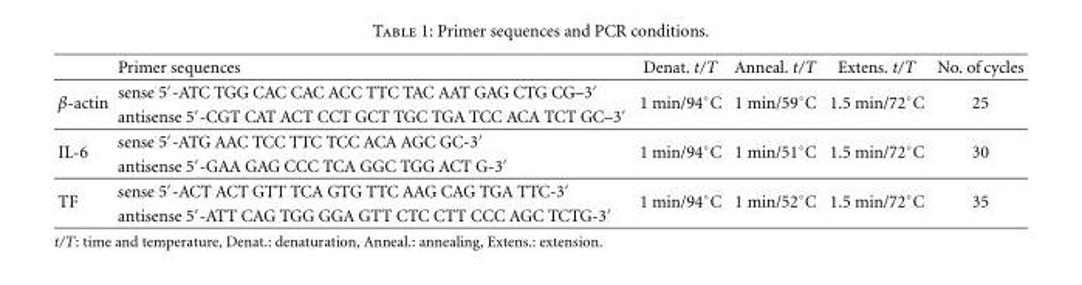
<table><thead><tr><td></td><td>Primer sequences</td><td>Denat. t/T</td><td>Anneal. t/T</td><td>Extens. t/T</td><td>No. of cycles</td></tr></thead><tbody><tr><td rowspan="2">β-actin</td><td>sense 5′-ATC TGG CAC CAC ACC TTC TAC AAT GAG CTG CG–3′</td><td rowspan="2">1 min/94◦C</td><td rowspan="2">1 min/59◦C</td><td rowspan="2">1.5 min/72◦C</td><td rowspan="2">25</td></tr><tr><td>antisense 5′-CGT CAT ACT CCT GCT TGC TGA TCC ACA TCT GC–3′</td></tr><tr><td rowspan="2">IL-6</td><td>sense 5′-ATG AAC TCC TTC TCC ACA AGC GC-3′</td><td rowspan="2">1 min/94◦C</td><td rowspan="2">1 min/51◦C</td><td rowspan="2">1.5 min/72◦C</td><td rowspan="2">30</td></tr><tr><td>antisense 5′-GAA GAG CCC TCA GGC TGG ACT G-3′</td></tr><tr><td rowspan="2">TF</td><td>sense 5′-ACT ACT GTT TCA GTG TTC AAG CAG TGA TTC-3′</td><td rowspan="2">1 min/94◦C</td><td rowspan="2">1 min/52◦C</td><td rowspan="2">1.5 min/72◦C</td><td rowspan="2">35</td></tr><tr><td>antisense 5′-ATT CAG TGG GGA GTT CTC CTT CCC AGC TCTG-3′</td></tr></tbody></table>